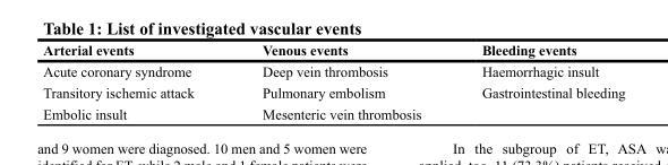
<table><thead><tr><td>Arterial events</td><td>Venous events</td><td>Bleeding events</td></tr></thead><tbody><tr><td>Acute coronary syndrome</td><td>Deep vein thrombosis</td><td>Haemorrhagic insult</td></tr><tr><td>Transitory ischemic attack</td><td>Pulmonary embolism</td><td>Gastrointestinal bleeding</td></tr><tr><td>Embolic insult</td><td>Mesenteric vein thrombosis</td><td></td></tr></tbody></table>